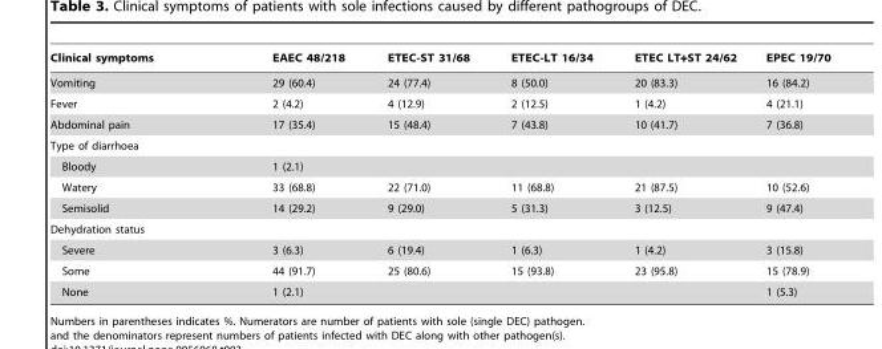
<table><thead><tr><td>Clinical symptoms</td><td>EAEC 48/218</td><td>ETEC-ST 31/68</td><td>ETEC-LT 16/34</td><td>ETEC LT+ST 24/62</td><td>EPEC 19/70</td></tr></thead><tbody><tr><td>Vomiting</td><td>29 (60.4)</td><td>24 (77.4)</td><td>8 (50.0)</td><td>20 (83.3)</td><td>16 (84.2)</td></tr><tr><td>Fever</td><td>2 (4.2)</td><td>4 (12.9)</td><td>2 (12.5)</td><td>1 (4.2)</td><td>4 (21.1)</td></tr><tr><td>Abdominal pain</td><td>17 (35.4)</td><td>15 (48.4)</td><td>7 (43.8)</td><td>10 (41.7)</td><td>7 (36.8)</td></tr><tr><td colspan="6">Type of diarrhoea</td></tr><tr><td>Bloody</td><td>1 (2.1)</td><td></td><td></td><td></td><td></td></tr><tr><td>Watery</td><td>33 (68.8)</td><td>22 (71.0)</td><td>11 (68.8)</td><td>21 (87.5)</td><td>10 (52.6)</td></tr><tr><td>Semisolid</td><td>14 (29.2)</td><td>9 (29.0)</td><td>5 (31.3)</td><td>3 (12.5)</td><td>9 (47.4)</td></tr><tr><td colspan="6">Dehydration status</td></tr><tr><td>Severe</td><td>3 (6.3)</td><td>6 (19.4)</td><td>1 (6.3)</td><td>1 (4.2)</td><td>3 (15.8)</td></tr><tr><td>Some</td><td>44 (91.7)</td><td>25 (80.6)</td><td>15 (93.8)</td><td>23 (95.8)</td><td>15 (78.9)</td></tr><tr><td>None</td><td>1 (2.1)</td><td></td><td></td><td></td><td>1 (5.3)</td></tr></tbody></table>